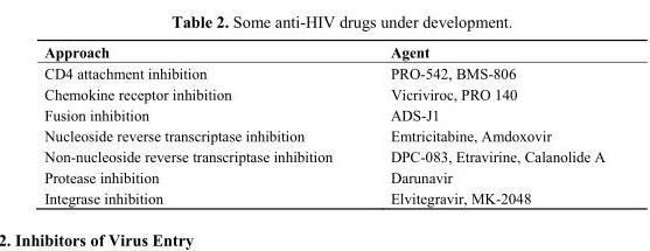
<table><thead><tr><td>Approach</td><td>Agent</td></tr></thead><tbody><tr><td>CD4 attachment inhibition</td><td>PRO-542, BMS-806</td></tr><tr><td>Chemokine receptor inhibition</td><td>Vicriviroc, PRO 140</td></tr><tr><td>Fusion inhibition</td><td>ADS-J1</td></tr><tr><td>Nucleoside reverse transcriptase inhibition</td><td>Emtricitabine, Amdoxovir</td></tr><tr><td>Non-nucleoside reverse transcriptase inhibition</td><td>DPC-083, Etravirine, Calanolide A</td></tr><tr><td>Protease inhibition</td><td>Darunavir</td></tr><tr><td>Integrase inhibition</td><td>Elvitegravir, MK-2048</td></tr></tbody></table>